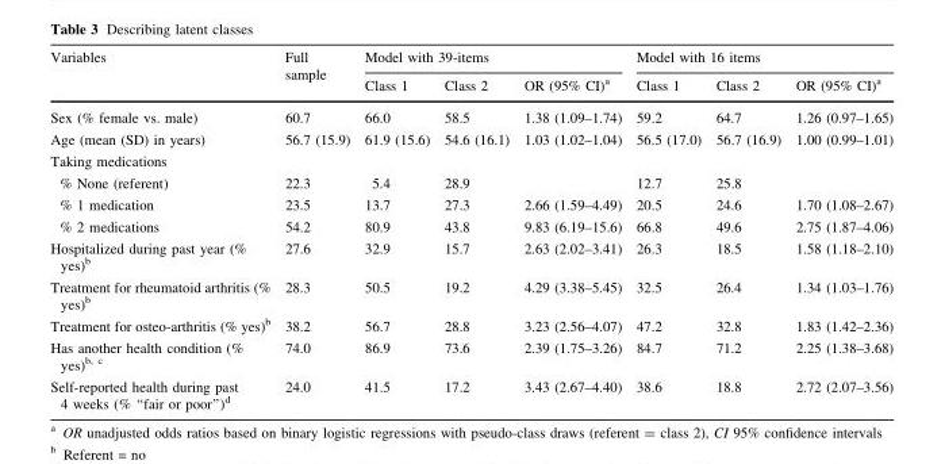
<table><thead><tr><td rowspan="2">Variables</td><td rowspan="2">Full sample</td><td colspan="3">Model with 39-items</td><td colspan="3">Model with 16 items</td></tr><tr><td>Class 1</td><td>Class 2</td><td>OR (95% CI)<sup>a</sup></td><td>Class 1</td><td>Class 2</td><td>OR (95% CI)<sup>a</sup></td></tr></thead><tbody><tr><td>Sex (% female vs. male)</td><td>60.7</td><td>66.0</td><td>58.5</td><td>1.38 (1.09–1.74)</td><td>59.2</td><td>64.7</td><td>1.26 (0.97–1.65)</td></tr><tr><td>Age (mean (SD) in years)</td><td>56.7 (15.9)</td><td>61.9 (15.6)</td><td>54.6 (16.1)</td><td>1.03 (1.02–1.04)</td><td>56.5 (17.0)</td><td>56.7 (16.9)</td><td>1.00 (0.99–1.01)</td></tr><tr><td colspan="8">Taking medications</td></tr><tr><td>% None (referent)</td><td>22.3</td><td>5.4</td><td>28.9</td><td></td><td>12.7</td><td>25.8</td><td></td></tr><tr><td>% 1 medication</td><td>23.5</td><td>13.7</td><td>27.3</td><td>2.66 (1.59–4.49)</td><td>20.5</td><td>24.6</td><td>1.70 (1.08–2.67)</td></tr><tr><td>% 2 medications</td><td>54.2</td><td>80.9</td><td>43.8</td><td>9.83 (6.19–15.6)</td><td>66.8</td><td>49.6</td><td>2.75 (1.87–4.06)</td></tr><tr><td>Hospitalized during past year (% yes)<sup>b</sup></td><td>27.6</td><td>32.9</td><td>15.7</td><td>2.63 (2.02–3.41)</td><td>26.3</td><td>18.5</td><td>1.58 (1.18–2.10)</td></tr><tr><td>Treatment for rheumatoid arthritis (% yes)<sup>b</sup></td><td>28.3</td><td>50.5</td><td>19.2</td><td>4.29 (3.38–5.45)</td><td>32.5</td><td>26.4</td><td>1.34 (1.03–1.76)</td></tr><tr><td>Treatment for osteo-arthritis (% yes)<sup>b</sup></td><td>38.2</td><td>56.7</td><td>28.8</td><td>3.23 (2.56–4.07)</td><td>47.2</td><td>32.8</td><td>1.83 (1.42–2.36)</td></tr><tr><td>Has another health condition (% yes)<sup>b, c</sup></td><td>74.0</td><td>86.9</td><td>73.6</td><td>2.39 (1.75–3.26)</td><td>84.7</td><td>71.2</td><td>2.25 (1.38–3.68)</td></tr><tr><td>Self-reported health during past 4 weeks (% ‘‘fair or poor’’)d</td><td>24.0</td><td>41.5</td><td>17.2</td><td>3.43 (2.67–4.40)</td><td>38.6</td><td>18.8</td><td>2.72 (2.07–3.56)</td></tr></tbody></table>